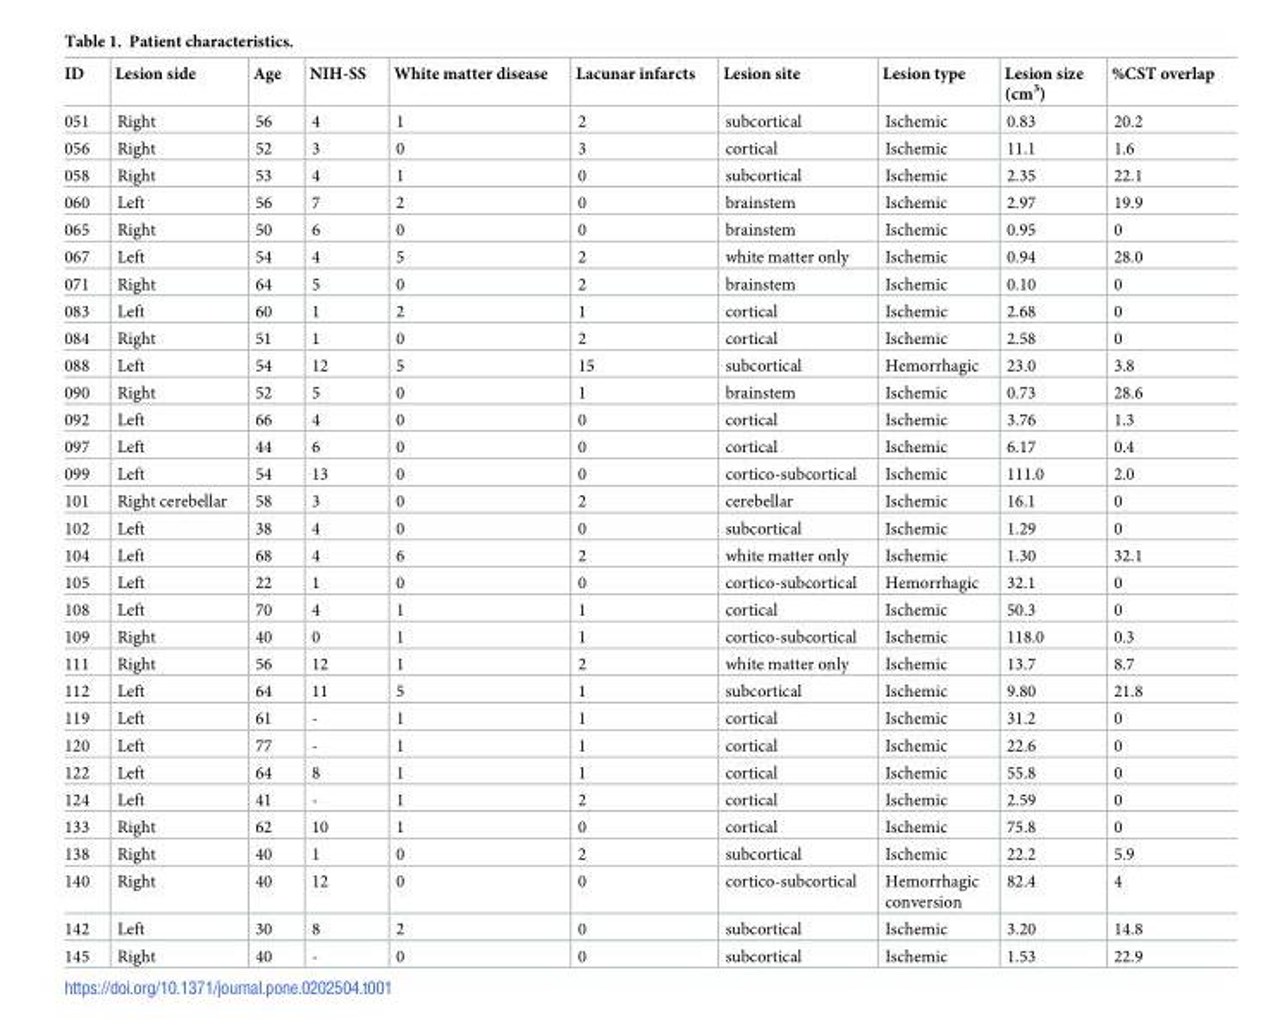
<table><thead><tr><td>ID</td><td>Lesion side</td><td>Age</td><td>NIH-SS</td><td>White matter disease</td><td>Lacunar infarcts</td><td>Lesion site</td><td>Lesion type</td><td>Lesion size (cm<sup>3</sup>)</td><td>%CST overlap</td></tr></thead><tbody><tr><td>051</td><td>Right</td><td>56</td><td>4</td><td>1</td><td>2</td><td>subcortical</td><td>Ischemic</td><td>0.83</td><td>20.2</td></tr><tr><td>056</td><td>Right</td><td>52</td><td>3</td><td>0</td><td>3</td><td>cortical</td><td>Ischemic</td><td>11.1</td><td>1.6</td></tr><tr><td>058</td><td>Right</td><td>53</td><td>4</td><td>1</td><td>0</td><td>subcortical</td><td>Ischemic</td><td>2.35</td><td>22.1</td></tr><tr><td>060</td><td>Left</td><td>56</td><td>7</td><td>2</td><td>0</td><td>brainstem</td><td>Ischemic</td><td>2.97</td><td>19.9</td></tr><tr><td>065</td><td>Right</td><td>50</td><td>6</td><td>0</td><td>0</td><td>brainstem</td><td>Ischemic</td><td>0.95</td><td>0</td></tr><tr><td>067</td><td>Left</td><td>54</td><td>4</td><td>5</td><td>2</td><td>white matter only</td><td>Ischemic</td><td>0.94</td><td>28.0</td></tr><tr><td>071</td><td>Right</td><td>64</td><td>5</td><td>0</td><td>2</td><td>brainstem</td><td>Ischemic</td><td>0.10</td><td>0</td></tr><tr><td>083</td><td>Left</td><td>60</td><td>1</td><td>2</td><td>1</td><td>cortical</td><td>Ischemic</td><td>2.68</td><td>0</td></tr><tr><td>084</td><td>Right</td><td>51</td><td>1</td><td>0</td><td>2</td><td>cortical</td><td>Ischemic</td><td>2.58</td><td>0</td></tr><tr><td>088</td><td>Left</td><td>54</td><td>12</td><td>5</td><td>15</td><td>subcortical</td><td>Hemorrhagic</td><td>23.0</td><td>3.8</td></tr><tr><td>090</td><td>Right</td><td>52</td><td>5</td><td>0</td><td>1</td><td>brainstem</td><td>Ischemic</td><td>0.73</td><td>28.6</td></tr><tr><td>092</td><td>Left</td><td>66</td><td>4</td><td>0</td><td>0</td><td>cortical</td><td>Ischemic</td><td>3.76</td><td>1.3</td></tr><tr><td>097</td><td>Left</td><td>44</td><td>6</td><td>0</td><td>0</td><td>cortical</td><td>Ischemic</td><td>6.17</td><td>0.4</td></tr><tr><td>099</td><td>Left</td><td>54</td><td>13</td><td>0</td><td>0</td><td>cortico-subcortical</td><td>Ischemic</td><td>111.0</td><td>2.0</td></tr><tr><td>101</td><td>Right cerebellar</td><td>58</td><td>3</td><td>0</td><td>2</td><td>cerebellar</td><td>Ischemic</td><td>16.1</td><td>0</td></tr><tr><td>102</td><td>Left</td><td>38</td><td>4</td><td>0</td><td>0</td><td>subcortical</td><td>Ischemic</td><td>1.29</td><td>0</td></tr><tr><td>104</td><td>Left</td><td>68</td><td>4</td><td>6</td><td>2</td><td>white matter only</td><td>Ischemic</td><td>1.30</td><td>32.1</td></tr><tr><td>105</td><td>Left</td><td>22</td><td>1</td><td>0</td><td>0</td><td>cortico-subcortical</td><td>Hemorrhagic</td><td>32.1</td><td>0</td></tr><tr><td>108</td><td>Left</td><td>70</td><td>4</td><td>1</td><td>1</td><td>cortical</td><td>Ischemic</td><td>50.3</td><td>0</td></tr><tr><td>109</td><td>Right</td><td>40</td><td>0</td><td>1</td><td>1</td><td>cortico-subcortical</td><td>Ischemic</td><td>118.0</td><td>0.3</td></tr><tr><td>111</td><td>Right</td><td>56</td><td>12</td><td>1</td><td>2</td><td>white matter only</td><td>Ischemic</td><td>13.7</td><td>8.7</td></tr><tr><td>112</td><td>Left</td><td>64</td><td>11</td><td>5</td><td>1</td><td>subcortical</td><td>Ischemic</td><td>9.80</td><td>21.8</td></tr><tr><td>119</td><td>Left</td><td>61</td><td>-</td><td>1</td><td>1</td><td>cortical</td><td>Ischemic</td><td>31.2</td><td>0</td></tr><tr><td>120</td><td>Left</td><td>77</td><td>-</td><td>1</td><td>1</td><td>cortical</td><td>Ischemic</td><td>22.6</td><td>0</td></tr><tr><td>122</td><td>Left</td><td>64</td><td>8</td><td>1</td><td>1</td><td>cortical</td><td>Ischemic</td><td>55.8</td><td>0</td></tr><tr><td>124</td><td>Left</td><td>41</td><td>-</td><td>1</td><td>2</td><td>cortical</td><td>Ischemic</td><td>2.59</td><td>0</td></tr><tr><td>133</td><td>Right</td><td>62</td><td>10</td><td>1</td><td>0</td><td>cortical</td><td>Ischemic</td><td>75.8</td><td>0</td></tr><tr><td>138</td><td>Right</td><td>40</td><td>1</td><td>0</td><td>2</td><td>subcortical</td><td>Ischemic</td><td>22.2</td><td>5.9</td></tr><tr><td>140</td><td>Right</td><td>40</td><td>12</td><td>0</td><td>0</td><td>cortico-subcortical</td><td>Hemorrhagic conversion</td><td>82.4</td><td>4</td></tr><tr><td>142</td><td>Left</td><td>30</td><td>8</td><td>2</td><td>0</td><td>subcortical</td><td>Ischemic</td><td>3.20</td><td>14.8</td></tr><tr><td>145</td><td>Right</td><td>40</td><td>-</td><td>0</td><td>0</td><td>subcortical</td><td>Ischemic</td><td>1.53</td><td>22.9</td></tr></tbody></table>